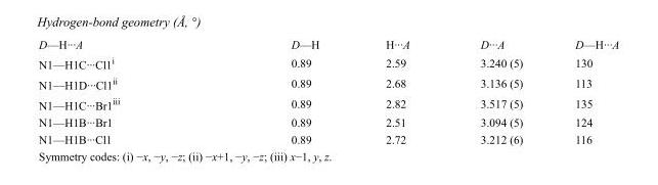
<table><tbody><tr><td>D—H···A</td><td>D—H</td><td>H···A</td><td>D···A</td><td>D—H···A</td></tr><tr><td>N1—H1C···Cl1<sup>i</sup></td><td>0.89</td><td>2.59</td><td>3.240 (5)</td><td>130</td></tr><tr><td>N1—H1D···Cl1<sup>ii</sup></td><td>0.89</td><td>2.68</td><td>3.136 (5)</td><td>113</td></tr><tr><td>N1—H1C···Br1<sup>iii</sup></td><td>0.89</td><td>2.82</td><td>3.517 (5)</td><td>135</td></tr><tr><td>N1—H1B···Br1</td><td>0.89</td><td>2.51</td><td>3.094 (5)</td><td>124</td></tr><tr><td>N1—H1B···Cl1</td><td>0.89</td><td>2.72</td><td>3.212 (6)</td><td>116</td></tr></tbody></table>